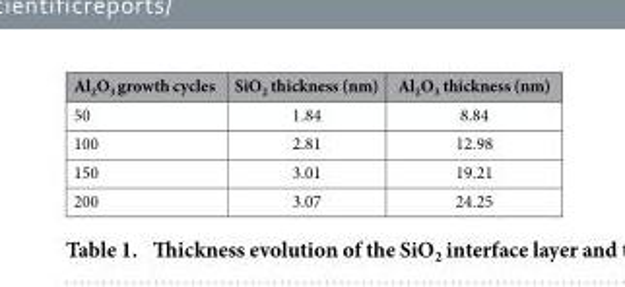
<table><thead><tr><td>Al2O3 growth cycles</td><td>SiO<sub>2</sub> thickness (nm)</td><td>Al<sub>2</sub>O<sub>3</sub> thickness (nm)</td></tr></thead><tbody><tr><td>50</td><td>1.84</td><td>8.84</td></tr><tr><td>100</td><td>2.81</td><td>12.98</td></tr><tr><td>150</td><td>3.01</td><td>19.21</td></tr><tr><td>200</td><td>3.07</td><td>24.25</td></tr></tbody></table>